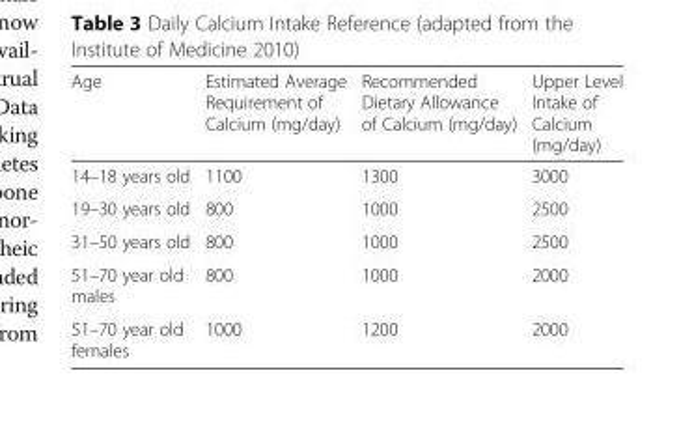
<table><thead><tr><td>Age</td><td>Estimated Average Requirement of Calcium (mg/day)</td><td>Recommended Dietary Allowance of Calcium (mg/day)</td><td>Upper Level Intake of Calcium (mg/day)</td></tr></thead><tbody><tr><td>14–18 years old</td><td>1100</td><td>1300</td><td>3000</td></tr><tr><td>19–30 years old</td><td>800</td><td>1000</td><td>2500</td></tr><tr><td>31–50 years old</td><td>800</td><td>1000</td><td>2500</td></tr><tr><td>51–70 year old males</td><td>800</td><td>1000</td><td>2000</td></tr><tr><td>51–70 year old females</td><td>1000</td><td>1200</td><td>2000</td></tr></tbody></table>